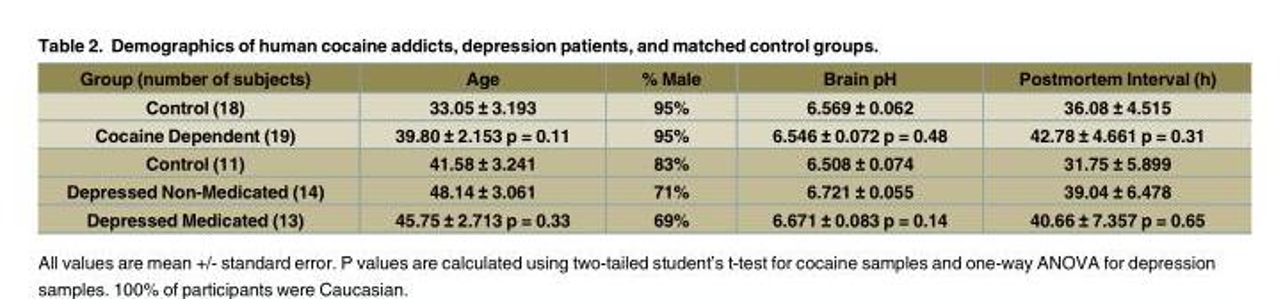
<table><thead><tr><td>Group (number of subjects)</td><td>Age</td><td>% Male</td><td>Brain pH</td><td>Postmortem Interval (h)</td></tr></thead><tbody><tr><td>Control (18)</td><td>33.05 ± 3.193</td><td>95%</td><td>6.569 ± 0.062</td><td>36.08 ± 4.515</td></tr><tr><td>Cocaine Dependent (19)</td><td>39.80 ± 2.153 p = 0.11</td><td>95%</td><td>6.546 ± 0.072 p = 0.48</td><td>42.78 ± 4.661 p = 0.31</td></tr><tr><td>Control (11)</td><td>41.58 ± 3.241</td><td>83%</td><td>6.508 ± 0.074</td><td>31.75 ± 5.899</td></tr><tr><td>Depressed Non-Medicated (14)</td><td>48.14 ± 3.061</td><td>71%</td><td>6.721 ± 0.055</td><td>39.04 ± 6.478</td></tr><tr><td>Depressed Medicated (13)</td><td>45.75 ± 2.713 p = 0.33</td><td>69%</td><td>6.671 ± 0.083 p = 0.14</td><td>40.66 ± 7.357 p = 0.65</td></tr></tbody></table>